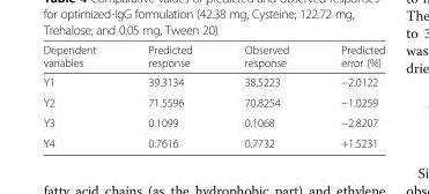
<table><thead><tr><td>Dependent variables</td><td>Predicted response</td><td>Observed response</td><td>Predicted error (%)</td></tr></thead><tbody><tr><td>Y1</td><td>39.3134</td><td>38.5223</td><td>−2.0122</td></tr><tr><td>Y2</td><td>71.5596</td><td>70.8254</td><td>−1.0259</td></tr><tr><td>Y3</td><td>0.1099</td><td>0.1068</td><td>−2.8207</td></tr><tr><td>Y4</td><td>0.7616</td><td>0.7732</td><td>+1.5231</td></tr></tbody></table>